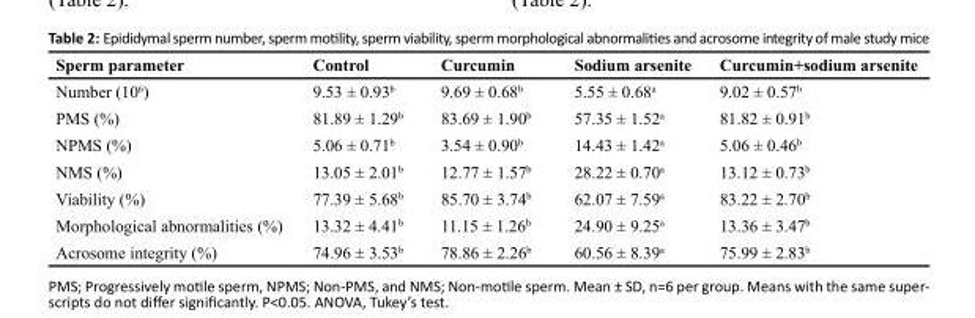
<table><thead><tr><td>Sperm parameter</td><td>Control</td><td>Curcumin</td><td>Sodium arsenite</td><td>Curcumin+sodium arsenite</td></tr></thead><tbody><tr><td>Number (10<sup>6</sup>)</td><td>9.53 ± 0.93<sup>b</sup></td><td>9.69 ± 0.68<sup>b</sup></td><td>5.55 ± 0.68<sup>a</sup></td><td>9.02 ± 0.57<sup>b</sup></td></tr><tr><td>PMS (%)</td><td>81.89 ± 1.29<sup>b</sup></td><td>83.69 ± 1.90<sup>b</sup></td><td>57.35 ± 1.52<sup>a</sup></td><td>81.82 ± 0.91<sup>b</sup></td></tr><tr><td>NPMS (%)</td><td>5.06 ± 0.71<sup>b</sup></td><td>3.54 ± 0.90<sup>b</sup></td><td>14.43 ± 1.42<sup>a</sup></td><td>5.06 ± 0.46<sup>b</sup></td></tr><tr><td>NMS (%)</td><td>13.05 ± 2.01<sup>b</sup></td><td>12.77 ± 1.57<sup>b</sup></td><td>28.22 ± 0.70<sup>a</sup></td><td>13.12 ± 0.73<sup>b</sup></td></tr><tr><td>Viability (%)</td><td>77.39 ± 5.68<sup>b</sup></td><td>85.70 ± 3.74<sup>b</sup></td><td>62.07 ± 7.59<sup>a</sup></td><td>83.22 ± 2.70<sup>b</sup></td></tr><tr><td>Morphological abnormalities (%)</td><td>13.32 ± 4.41<sup>b</sup></td><td>11.15 ± 1.26<sup>b</sup></td><td>24.90 ± 9.25<sup>a</sup></td><td>13.36 ± 3.47<sup>b</sup></td></tr><tr><td>Acrosome integrity (%)</td><td>74.96 ± 3.53<sup>b</sup></td><td>78.86 ± 2.26<sup>b</sup></td><td>60.56 ± 8.39<sup>a</sup></td><td>75.99 ± 2.83<sup>b</sup></td></tr></tbody></table>